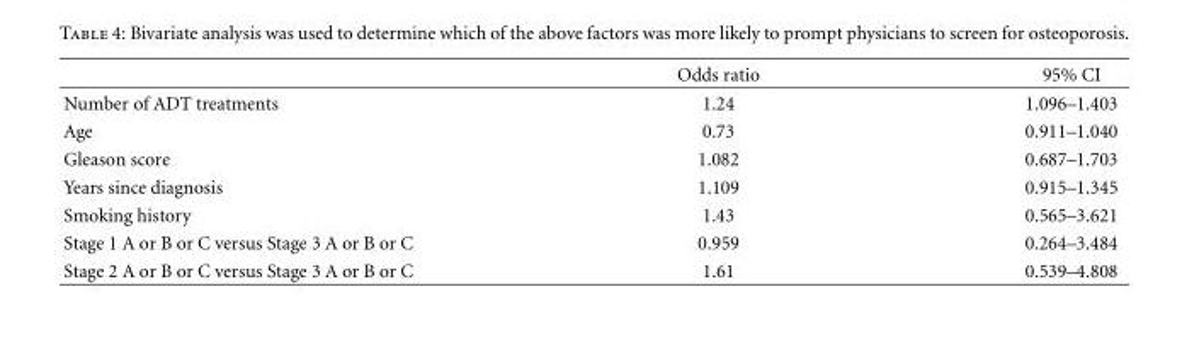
<table><thead><tr><td></td><td>Odds ratio</td><td>95% CI</td></tr></thead><tbody><tr><td>Number of ADT treatments</td><td>1.24</td><td>1.096–1.403</td></tr><tr><td>Age</td><td>0.73</td><td>0.911–1.040</td></tr><tr><td>Gleason score</td><td>1.082</td><td>0.687–1.703</td></tr><tr><td>Years since diagnosis</td><td>1.109</td><td>0.915–1.345</td></tr><tr><td>Smoking history</td><td>1.43</td><td>0.565–3.621</td></tr><tr><td>Stage 1 A or B or C versus Stage 3 A or B or C</td><td>0.959</td><td>0.264–3.484</td></tr><tr><td>Stage 2 A or B or C versus Stage 3 A or B or C</td><td>1.61</td><td>0.539–4.808</td></tr></tbody></table>